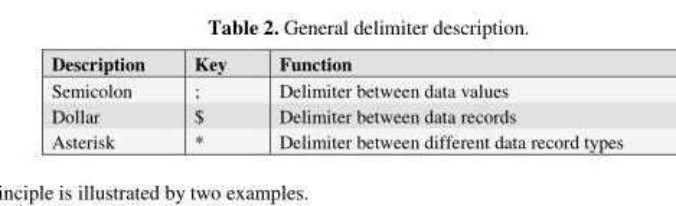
<table><thead><tr><td>Description</td><td>Key</td><td>Function</td></tr></thead><tbody><tr><td>Semicolon</td><td>;</td><td>Delimiter between data values</td></tr><tr><td>Dollar</td><td>$</td><td>Delimiter between data records</td></tr><tr><td>Asterisk</td><td>*</td><td>Delimiter between different data record types</td></tr></tbody></table>